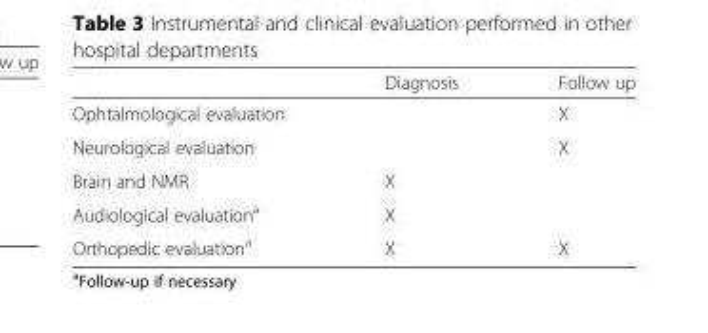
<table><thead><tr><td></td><td>Diagnosis</td><td>Follow up</td></tr></thead><tbody><tr><td>Ophtalmological evaluation</td><td></td><td>X</td></tr><tr><td>Neurological evaluation</td><td></td><td>X</td></tr><tr><td>Brain and NMR</td><td>X</td><td></td></tr><tr><td>Audiological evaluation<sup>a</sup></td><td>X</td><td></td></tr><tr><td>Orthopedic evaluation<sup>a</sup></td><td>X</td><td>X</td></tr></tbody></table>